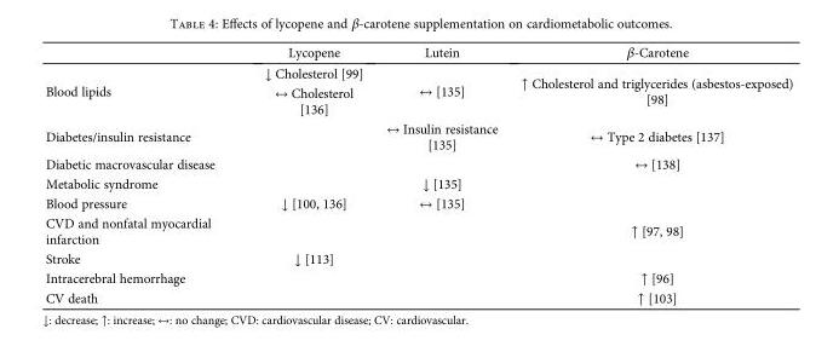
<table><thead><tr><td></td><td>Lycopene</td><td>Lutein</td><td>β-Carotene</td></tr></thead><tbody><tr><td rowspan="2">Blood lipids</td><td>↓ Cholesterol [99]</td><td rowspan="2">↔ [135]</td><td rowspan="2">↑ Cholesterol and triglycerides (asbestos-exposed) [98]</td></tr><tr><td>↔ Cholesterol [136]</td></tr><tr><td>Diabetes/insulin resistance</td><td></td><td>↔ Insulin resistance [135]</td><td>↔ Type 2 diabetes [137]</td></tr><tr><td>Diabetic macrovascular disease</td><td></td><td></td><td>↔ [138]</td></tr><tr><td>Metabolic syndrome</td><td></td><td>↓ [135]</td><td></td></tr><tr><td>Blood pressure</td><td>↓ [100, 136]</td><td>↔ [135]</td><td></td></tr><tr><td>CVD and nonfatal myocardial infarction</td><td></td><td></td><td>↑ [97, 98]</td></tr><tr><td>Stroke</td><td>↓ [113]</td><td></td><td></td></tr><tr><td>Intracerebral hemorrhage</td><td></td><td></td><td>↑ [96]</td></tr><tr><td>CV death</td><td></td><td></td><td>↑ [103]</td></tr></tbody></table>